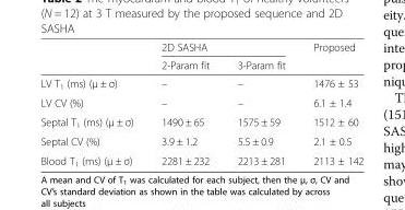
<table><thead><tr><td rowspan="2"></td><td colspan="2">2D SASHA</td><td rowspan="2">Proposed</td></tr><tr><td>2-Param fit</td><td>3-Param fit</td></tr></thead><tbody><tr><td>LV T<sub>1</sub> (ms) (μ ± σ)</td><td>–</td><td>–</td><td>1476 ± 53</td></tr><tr><td>LV CV (%)</td><td>–</td><td>–</td><td>6.1 ± 1.4</td></tr><tr><td>Septal T<sub>1</sub> (ms) (μ ± σ)</td><td>1490 ± 65</td><td>1575 ± 59</td><td>1512 ± 60</td></tr><tr><td>Septal CV (%)</td><td>3.9 ± 1.2</td><td>5.5 ± 0.9</td><td>2.1 ± 0.5</td></tr><tr><td>Blood T<sub>1</sub> (ms) (μ ± σ)</td><td>2281 ± 232</td><td>2213 ± 281</td><td>2113 ± 142</td></tr></tbody></table>